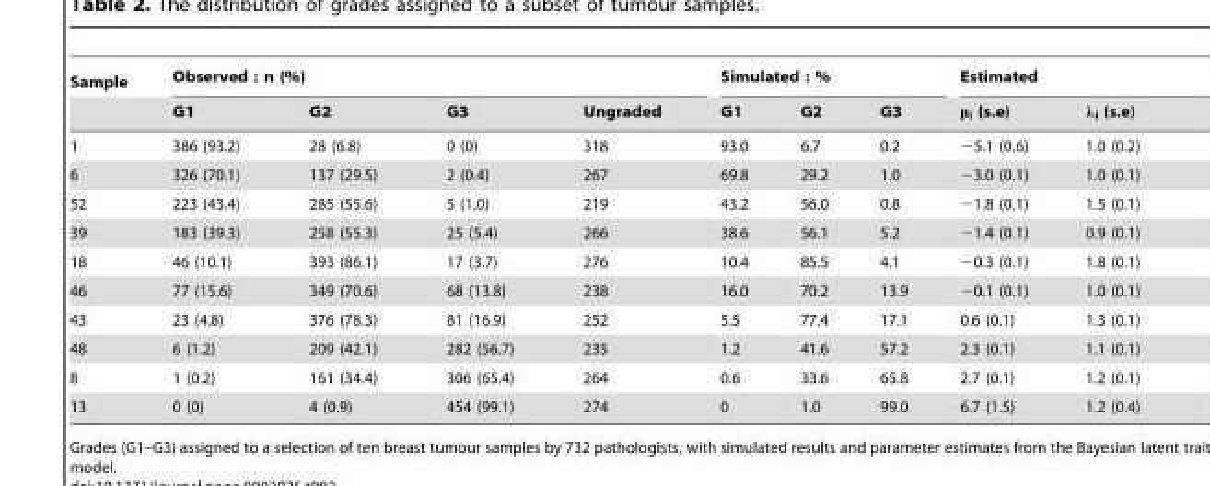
<table><thead><tr><td rowspan="2">Sample</td><td colspan="4">Observed : n (%)</td><td colspan="3">Simulated : %</td><td colspan="2">Estimated</td></tr><tr><td>G1</td><td>G2</td><td>G3</td><td>Ungraded</td><td>G1</td><td>G2</td><td>G3</td><td>μ<sub>i</sub> (s.e)</td><td>λ<sub>i</sub> (s.e)</td></tr></thead><tbody><tr><td>1</td><td>386 (93.2)</td><td>28 (6.8)</td><td>0 (0)</td><td>318</td><td>93.0</td><td>6.7</td><td>0.2</td><td>−5.1 (0.6)</td><td>1.0 (0.2)</td></tr><tr><td>6</td><td>326 (70.1)</td><td>137 (29.5)</td><td>2 (0.4)</td><td>267</td><td>69.8</td><td>29.2</td><td>1.0</td><td>−3.0 (0.1)</td><td>1.0 (0.1)</td></tr><tr><td>52</td><td>223 (43.4)</td><td>285 (55.6)</td><td>5 (1.0)</td><td>219</td><td>43.2</td><td>56.0</td><td>0.8</td><td>−1.8 (0.1)</td><td>1.5 (0.1)</td></tr><tr><td>39</td><td>183 (39.3)</td><td>258 (55.3)</td><td>25 (5.4)</td><td>266</td><td>38.6</td><td>56.1</td><td>5.2</td><td>−1.4 (0.1)</td><td>0.9 (0.1)</td></tr><tr><td>18</td><td>46 (10.1)</td><td>393 (86.1)</td><td>17 (3.7)</td><td>276</td><td>10.4</td><td>85.5</td><td>4.1</td><td>−0.3 (0.1)</td><td>1.8 (0.1)</td></tr><tr><td>46</td><td>77 (15.6)</td><td>349 (70.6)</td><td>68 (13.8)</td><td>238</td><td>16.0</td><td>70.2</td><td>13.9</td><td>−0.1 (0.1)</td><td>1.0 (0.1)</td></tr><tr><td>43</td><td>23 (4.8)</td><td>376 (78.3)</td><td>81 (16.9)</td><td>252</td><td>5.5</td><td>77.4</td><td>17.1</td><td>0.6 (0.1)</td><td>1.3 (0.1)</td></tr><tr><td>48</td><td>6 (1.2)</td><td>209 (42.1)</td><td>282 (56.7)</td><td>235</td><td>1.2</td><td>41.6</td><td>57.2</td><td>2.3 (0.1)</td><td>1.1 (0.1)</td></tr><tr><td>8</td><td>1 (0.2)</td><td>161 (34.4)</td><td>306 (65.4)</td><td>264</td><td>0.6</td><td>33.6</td><td>65.8</td><td>2.7 (0.1)</td><td>1.2 (0.1)</td></tr><tr><td>13</td><td>0 (0)</td><td>4 (0.9)</td><td>454 (99.1)</td><td>274</td><td>0</td><td>1.0</td><td>99.0</td><td>6.7 (1.5)</td><td>1.2 (0.4)</td></tr></tbody></table>